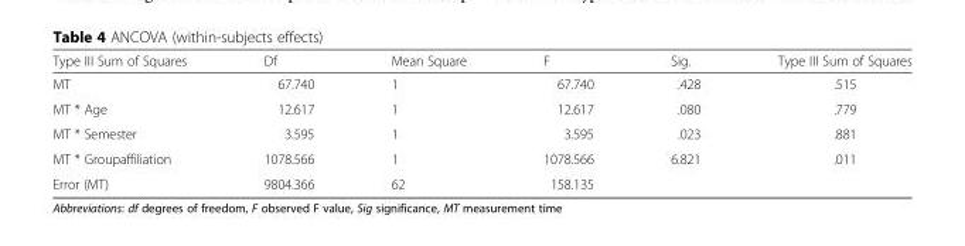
<table><thead><tr><td>Type III Sum of Squares</td><td>Df</td><td>Mean Square</td><td>F</td><td>Sig.</td><td>Type III Sum of Squares</td></tr></thead><tbody><tr><td>MT</td><td>67.740</td><td>1</td><td>67.740</td><td>.428</td><td>.515</td></tr><tr><td>MT * Age</td><td>12.617</td><td>1</td><td>12.617</td><td>.080</td><td>.779</td></tr><tr><td>MT * Semester</td><td>3.595</td><td>1</td><td>3.595</td><td>.023</td><td>.881</td></tr><tr><td>MT * Groupaffiliation</td><td>1078.566</td><td>1</td><td>1078.566</td><td>6.821</td><td>.011</td></tr><tr><td>Error (MT)</td><td>9804.366</td><td>62</td><td>158.135</td><td></td><td></td></tr></tbody></table>